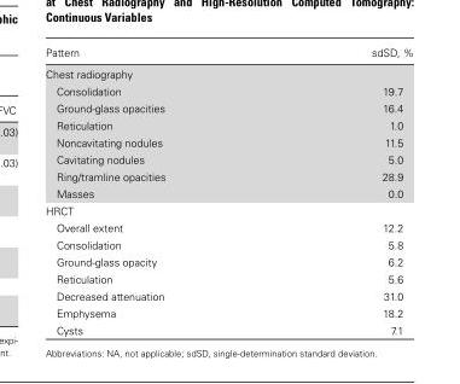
<table><thead><tr><td>Pattern</td><td>sdSD, %</td></tr></thead><tbody><tr><td colspan="2">Chest radiography</td></tr><tr><td>Consolidation</td><td>19.7</td></tr><tr><td>Ground-glass opacities</td><td>16.4</td></tr><tr><td>Reticulation</td><td>1.0</td></tr><tr><td>Noncavitating nodules</td><td>11.5</td></tr><tr><td>Cavitating nodules</td><td>5.0</td></tr><tr><td>Ring/tramline opacities</td><td>28.9</td></tr><tr><td>Masses</td><td>0.0</td></tr><tr><td colspan="2">HRCT</td></tr><tr><td>Overall extent</td><td>12.2</td></tr><tr><td>Consolidation</td><td>5.8</td></tr><tr><td>Ground-glass opacity</td><td>6.2</td></tr><tr><td>Reticulation</td><td>5.6</td></tr><tr><td>Decreased attenuation</td><td>31.0</td></tr><tr><td>Emphysema</td><td>18.2</td></tr><tr><td>Cysts</td><td>7.1</td></tr></tbody></table>